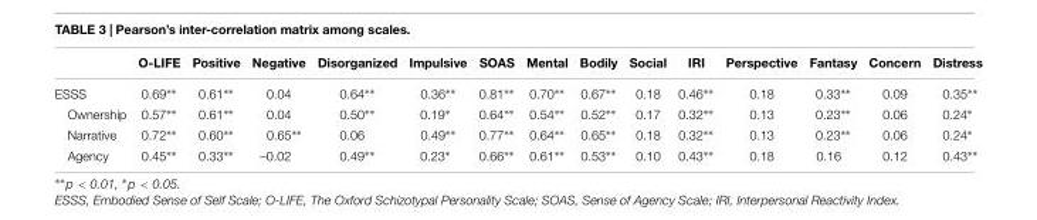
<table><thead><tr><td></td><td>O-LIFE</td><td>Positive</td><td>Negative</td><td>Disorganized</td><td>Impulsive</td><td>SOAS</td><td>Mental</td><td>Bodily</td><td>Social</td><td>IRI</td><td>Perspective</td><td>Fantasy</td><td>Concern</td><td>Distress</td></tr></thead><tbody><tr><td>ESSS</td><td>0.69∗∗</td><td>0.61∗∗</td><td>0.04</td><td>0.64∗∗</td><td>0.36∗∗</td><td>0.81∗∗</td><td>0.70∗∗</td><td>0.67∗∗</td><td>0.18</td><td>0.46∗∗</td><td>0.18</td><td>0.33∗∗</td><td>0.09</td><td>0.35∗∗</td></tr><tr><td>Ownership</td><td>0.57∗∗</td><td>0.61∗∗</td><td>0.04</td><td>0.50∗∗</td><td>0.19∗</td><td>0.64∗∗</td><td>0.54∗∗</td><td>0.52∗∗</td><td>0.17</td><td>0.32∗∗</td><td>0.13</td><td>0.23∗∗</td><td>0.06</td><td>0.24∗</td></tr><tr><td>Narrative</td><td>0.72∗∗</td><td>0.60∗∗</td><td>0.65∗∗</td><td>0.06</td><td>0.49∗∗</td><td>0.77∗∗</td><td>0.64∗∗</td><td>0.65∗∗</td><td>0.18</td><td>0.32∗∗</td><td>0.13</td><td>0.23∗∗</td><td>0.06</td><td>0.24∗</td></tr><tr><td>Agency</td><td>0.45∗∗</td><td>0.33∗∗</td><td>–0.02</td><td>0.49∗∗</td><td>0.23∗</td><td>0.66∗∗</td><td>0.61∗∗</td><td>0.53∗∗</td><td>0.10</td><td>0.43∗∗</td><td>0.18</td><td>0.16</td><td>0.12</td><td>0.43∗∗</td></tr></tbody></table>